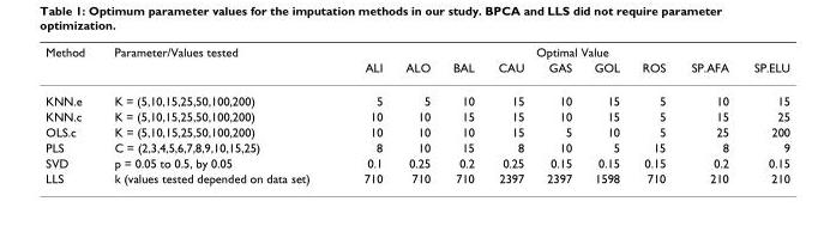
<table><thead><tr><td rowspan="2">Method</td><td rowspan="2">Parameter/Values tested</td><td colspan="9">Optimal Value</td></tr><tr><td>ALI</td><td>ALO</td><td>BAL</td><td>CAU</td><td>GAS</td><td>GOL</td><td>ROS</td><td>SP.AFA</td><td>SP.ELU</td></tr></thead><tbody><tr><td>KNN.e</td><td>K = (5,10,15,25,50,100,200)</td><td>5</td><td>5</td><td>10</td><td>15</td><td>10</td><td>15</td><td>5</td><td>10</td><td>15</td></tr><tr><td>KNN.c</td><td>K = (5,10,15,25,50,100,200)</td><td>10</td><td>10</td><td>15</td><td>15</td><td>10</td><td>15</td><td>5</td><td>15</td><td>25</td></tr><tr><td>OLS.c</td><td>K = (5,10,15,25,50,100,200)</td><td>10</td><td>10</td><td>10</td><td>15</td><td>5</td><td>10</td><td>5</td><td>25</td><td>200</td></tr><tr><td>PLS</td><td>C = (2,3,4,5,6,7,8,9,10,15,25)</td><td>8</td><td>10</td><td>15</td><td>8</td><td>10</td><td>5</td><td>15</td><td>8</td><td>9</td></tr><tr><td>SVD</td><td>p = 0.05 to 0.5, by 0.05</td><td>0.1</td><td>0.25</td><td>0.2</td><td>0.25</td><td>0.15</td><td>0.15</td><td>0.15</td><td>0.2</td><td>0.15</td></tr><tr><td>LLS</td><td>k (values tested depended on data set)</td><td>710</td><td>710</td><td>710</td><td>2397</td><td>2397</td><td>1598</td><td>710</td><td>210</td><td>210</td></tr></tbody></table>